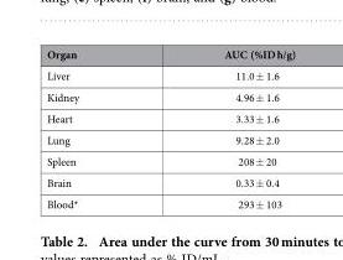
<table><thead><tr><td>Organ</td><td>AUC (%ID h/g)</td></tr></thead><tbody><tr><td>Liver</td><td>11.0 ± 1.6</td></tr><tr><td>Kidney</td><td>4.96 ± 1.6</td></tr><tr><td>Heart</td><td>3.33 ± 1.6</td></tr><tr><td>Lung</td><td>9.28 ± 2.0</td></tr><tr><td>Spleen</td><td>208 ± 20</td></tr><tr><td>Brain</td><td>0.33 ± 0.4</td></tr><tr><td>Blood*</td><td>293 ± 103</td></tr></tbody></table>